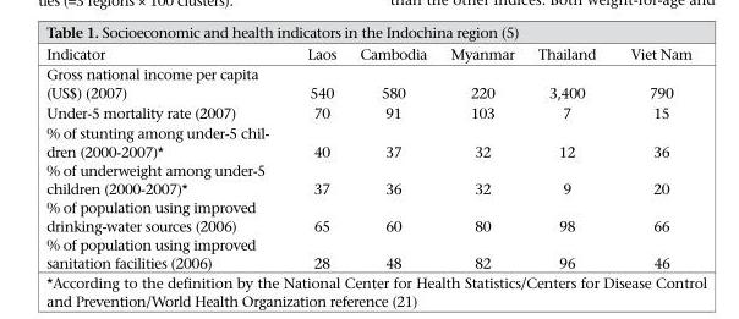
<table><thead><tr><td>Indicator</td><td>Laos</td><td>Cambodia</td><td>Myanmar</td><td>Thailand</td><td>Viet Nam</td></tr></thead><tbody><tr><td>Gross national income per capita (US$) (2007)</td><td>540</td><td>580</td><td>220</td><td>3,400</td><td>790</td></tr><tr><td>Under-5 mortality rate (2007)</td><td>70</td><td>91</td><td>103</td><td>7</td><td>15</td></tr><tr><td>% of stunting among under-5 chil- dren (2000-2007)*</td><td>40</td><td>37</td><td>32</td><td>12</td><td>36</td></tr><tr><td>% of underweight among under-5 children (2000-2007)*</td><td>37</td><td>36</td><td>32</td><td>9</td><td>20</td></tr><tr><td>% of population using improved drinking-water sources (2006)</td><td>65</td><td>60</td><td>80</td><td>98</td><td>66</td></tr><tr><td>% of population using improved sanitation facilities (2006)</td><td>28</td><td>48</td><td>82</td><td>96</td><td>46</td></tr></tbody></table>